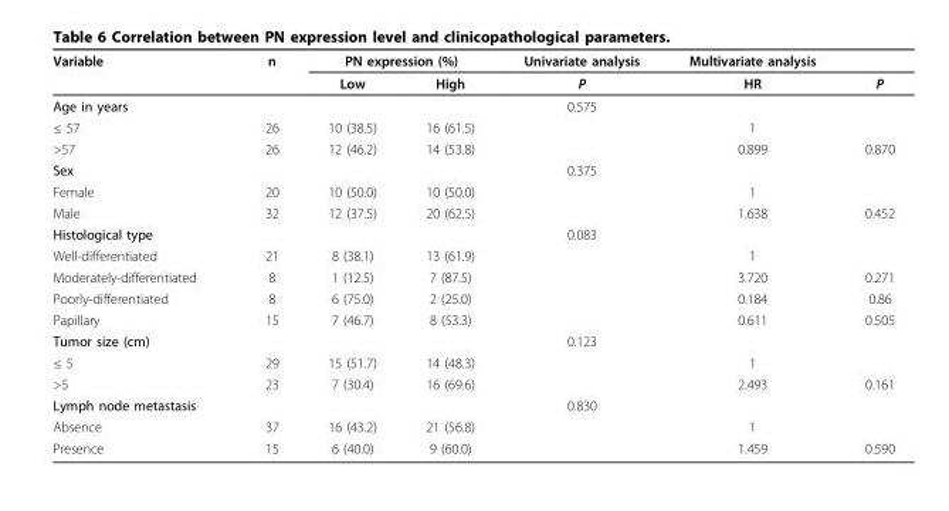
<table><thead><tr><td rowspan="2">Variable</td><td rowspan="2">n</td><td colspan="2">PN expression (%)</td><td rowspan="2">Univariate analysis P</td><td rowspan="2">Multivariate analysis HR</td><td rowspan="2">P</td></tr><tr><td>Low</td><td>High</td></tr></thead><tbody><tr><td>Age in years</td><td></td><td></td><td></td><td>0.575</td><td></td><td></td></tr><tr><td>≤ 57</td><td>26</td><td>10 (38.5)</td><td>16 (61.5)</td><td></td><td>1</td><td></td></tr><tr><td>&gt;57</td><td>26</td><td>12 (46.2)</td><td>14 (53.8)</td><td></td><td>0.899</td><td>0.870</td></tr><tr><td>Sex</td><td></td><td></td><td></td><td>0.375</td><td></td><td></td></tr><tr><td>Female</td><td>20</td><td>10 (50.0)</td><td>10 (50.0)</td><td></td><td>1</td><td></td></tr><tr><td>Male</td><td>32</td><td>12 (37.5)</td><td>20 (62.5)</td><td></td><td>1.638</td><td>0.452</td></tr><tr><td>Histological type</td><td></td><td></td><td></td><td>0.083</td><td></td><td></td></tr><tr><td>Well-differentiated</td><td>21</td><td>8 (38.1)</td><td>13 (61.9)</td><td></td><td>1</td><td></td></tr><tr><td>Moderately-differentiated</td><td>8</td><td>1 (12.5)</td><td>7 (87.5)</td><td></td><td>3.720</td><td>0.271</td></tr><tr><td>Poorly-differentiated</td><td>8</td><td>6 (75.0)</td><td>2 (25.0)</td><td></td><td>0.184</td><td>0.86</td></tr><tr><td>Papillary</td><td>15</td><td>7 (46.7)</td><td>8 (53.3)</td><td></td><td>0.611</td><td>0.505</td></tr><tr><td>Tumor size (cm)</td><td></td><td></td><td></td><td>0.123</td><td></td><td></td></tr><tr><td>≤ 5</td><td>29</td><td>15 (51.7)</td><td>14 (48.3)</td><td></td><td>1</td><td></td></tr><tr><td>&gt;5</td><td>23</td><td>7 (30.4)</td><td>16 (69.6)</td><td></td><td>2.493</td><td>0.161</td></tr><tr><td>Lymph node metastasis</td><td></td><td></td><td></td><td>0.830</td><td></td><td></td></tr><tr><td>Absence</td><td>37</td><td>16 (43.2)</td><td>21 (56.8)</td><td></td><td>1</td><td></td></tr><tr><td>Presence</td><td>15</td><td>6 (40.0)</td><td>9 (60.0)</td><td></td><td>1.459</td><td>0.590</td></tr></tbody></table>